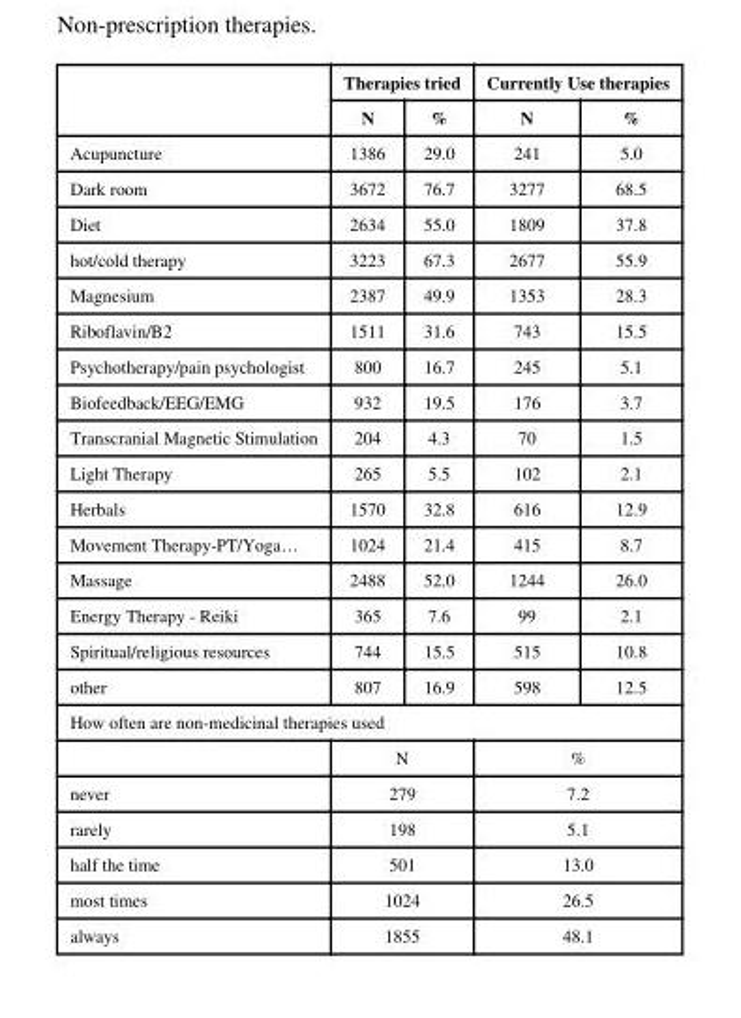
<table><thead><tr><td rowspan="2"></td><td colspan="2">Therapies tried</td><td colspan="2">Currently Use therapies</td></tr><tr><td>N</td><td>%</td><td>N</td><td>%</td></tr></thead><tbody><tr><td>Acupuncture</td><td>1386</td><td>29.0</td><td>241</td><td>5.0</td></tr><tr><td>Dark room</td><td>3672</td><td>76.7</td><td>3277</td><td>68.5</td></tr><tr><td>Diet</td><td>2634</td><td>55.0</td><td>1809</td><td>37.8</td></tr><tr><td>hot/cold therapy</td><td>3223</td><td>67.3</td><td>2677</td><td>55.9</td></tr><tr><td>Magnesium</td><td>2387</td><td>49.9</td><td>1353</td><td>28.3</td></tr><tr><td>Riboflavin/B2</td><td>1511</td><td>31.6</td><td>743</td><td>15.5</td></tr><tr><td>Psychotherapy/pain psychologist</td><td>800</td><td>16.7</td><td>245</td><td>5.1</td></tr><tr><td>Biofeedback/EEG/EMG</td><td>932</td><td>19.5</td><td>176</td><td>3.7</td></tr><tr><td>Transcranial Magnetic Stimulation</td><td>204</td><td>4.3</td><td>70</td><td>1.5</td></tr><tr><td>Light Therapy</td><td>265</td><td>5.5</td><td>102</td><td>2.1</td></tr><tr><td>Herbals</td><td>1570</td><td>32.8</td><td>616</td><td>12.9</td></tr><tr><td>Movement Therapy-PT/Yoga…</td><td>1024</td><td>21.4</td><td>415</td><td>8.7</td></tr><tr><td>Massage</td><td>2488</td><td>52.0</td><td>1244</td><td>26.0</td></tr><tr><td>Energy Therapy - Reiki</td><td>365</td><td>7.6</td><td>99</td><td>2.1</td></tr><tr><td>Spiritual/religious resources</td><td>744</td><td>15.5</td><td>515</td><td>10.8</td></tr><tr><td>other</td><td>807</td><td>16.9</td><td>598</td><td>12.5</td></tr><tr><td colspan="5">How often are non-medicinal therapies used</td></tr><tr><td></td><td colspan="2">N</td><td colspan="2">%</td></tr><tr><td>never</td><td colspan="2">279</td><td colspan="2">7.2</td></tr><tr><td>rarely</td><td colspan="2">198</td><td colspan="2">5.1</td></tr><tr><td>half the time</td><td colspan="2">501</td><td colspan="2">13.0</td></tr><tr><td>most times</td><td colspan="2">1024</td><td colspan="2">26.5</td></tr><tr><td>always</td><td colspan="2">1855</td><td colspan="2">48.1</td></tr></tbody></table>